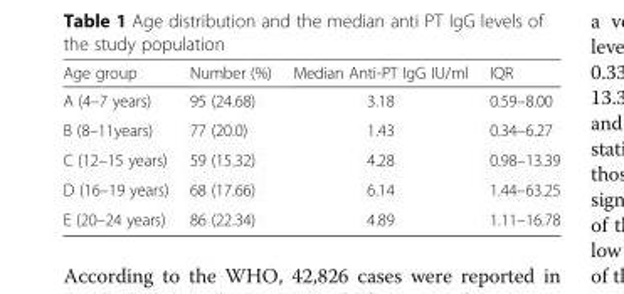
<table><thead><tr><td>Age group</td><td>Number (%)</td><td>Median Anti-PT IgG IU/ml</td><td>IQR</td></tr></thead><tbody><tr><td>A (4–7 years)</td><td>95 (24.68)</td><td>3.18</td><td>0.59–8.00</td></tr><tr><td>B (8–11years)</td><td>77 (20.0)</td><td>1.43</td><td>0.34–6.27</td></tr><tr><td>C (12–15 years)</td><td>59 (15.32)</td><td>4.28</td><td>0.98–13.39</td></tr><tr><td>D (16–19 years)</td><td>68 (17.66)</td><td>6.14</td><td>1.44–63.25</td></tr><tr><td>E (20–24 years)</td><td>86 (22.34)</td><td>4.89</td><td>1.11–16.78</td></tr></tbody></table>